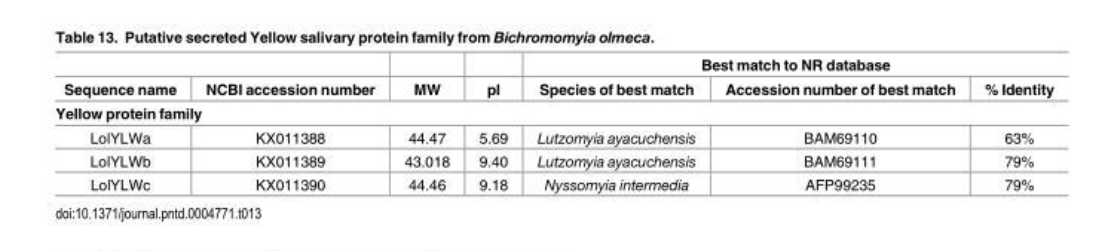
<table><thead><tr><td rowspan="2">Sequence name</td><td rowspan="2">NCBI accession number</td><td rowspan="2">MW</td><td rowspan="2">pI</td><td colspan="3">Best match to NR database</td></tr><tr><td>Species of best match</td><td>Accession number of best match</td><td>% Identity</td></tr><tr><td colspan="7">Yellow protein family</td></tr></thead><tbody><tr><td>LolYLWa</td><td>KX011388</td><td>44.47</td><td>5.69</td><td>Lutzomyia ayacuchensis</td><td>BAM69110</td><td>63%</td></tr><tr><td>LolYLWb</td><td>KX011389</td><td>43.018</td><td>9.40</td><td>Lutzomyia ayacuchensis</td><td>BAM69111</td><td>79%</td></tr><tr><td>LolYLWc</td><td>KX011390</td><td>44.46</td><td>9.18</td><td>Nyssomyia intermedia</td><td>AFP99235</td><td>79%</td></tr></tbody></table>